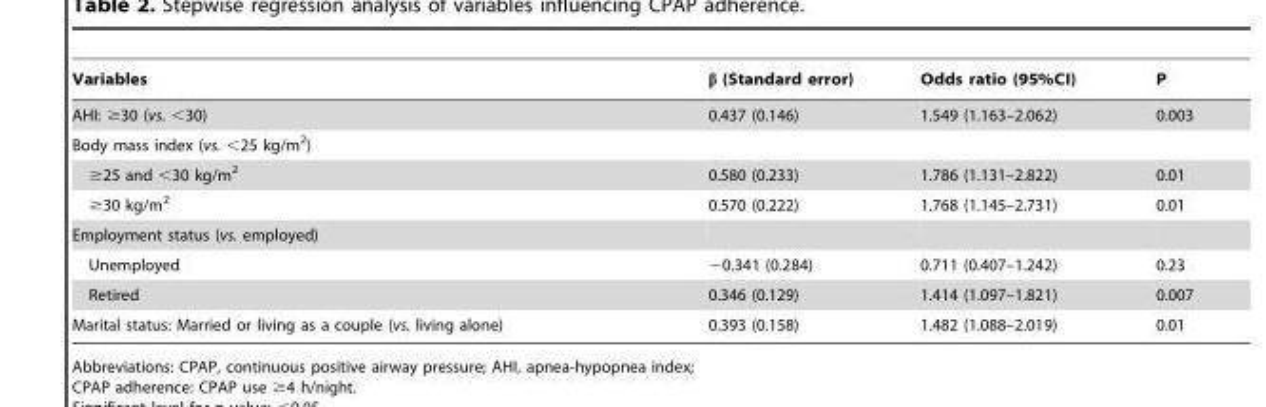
<table><thead><tr><td>Variables</td><td>β (Standard error)</td><td>Odds ratio (95%CI)</td><td>P</td></tr></thead><tbody><tr><td>AHI: ≥30 (vs. &lt;30)</td><td>0.437 (0.146)</td><td>1.549 (1.163–2.062)</td><td>0.003</td></tr><tr><td colspan="4">Body mass index (vs. &lt;25 kg/m<sup>2</sup>)</td></tr><tr><td>≥25 and &lt;30 kg/m<sup>2</sup></td><td>0.580 (0.233)</td><td>1.786 (1.131–2.822)</td><td>0.01</td></tr><tr><td>≥30 kg/m<sup>2</sup></td><td>0.570 (0.222)</td><td>1.768 (1.145–2.731)</td><td>0.01</td></tr><tr><td colspan="4">Employment status (vs. employed)</td></tr><tr><td>Unemployed</td><td>−0.341 (0.284)</td><td>0.711 (0.407–1.242)</td><td>0.23</td></tr><tr><td>Retired</td><td>0.346 (0.129)</td><td>1.414 (1.097–1.821)</td><td>0.007</td></tr><tr><td>Marital status: Married or living as a couple (vs. living alone)</td><td>0.393 (0.158)</td><td>1.482 (1.088–2.019)</td><td>0.01</td></tr></tbody></table>